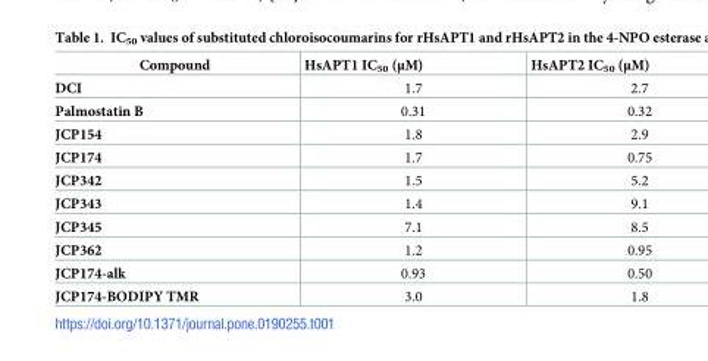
<table><thead><tr><td>Compound</td><td>HsAPT1 IC<sub>50</sub> (μM)</td><td>HsAPT2 IC<sub>50</sub> (μM)</td></tr></thead><tbody><tr><td>DCI</td><td>1.7</td><td>2.7</td></tr><tr><td>Palmostatin B</td><td>0.31</td><td>0.32</td></tr><tr><td>JCP154</td><td>1.8</td><td>2.9</td></tr><tr><td>JCP174</td><td>1.7</td><td>0.75</td></tr><tr><td>JCP342</td><td>1.5</td><td>5.2</td></tr><tr><td>JCP343</td><td>1.4</td><td>9.1</td></tr><tr><td>JCP345</td><td>7.1</td><td>8.5</td></tr><tr><td>JCP362</td><td>1.2</td><td>0.95</td></tr><tr><td>JCP174-alk</td><td>0.93</td><td>0.50</td></tr><tr><td>JCP174-BODIPY TMR</td><td>3.0</td><td>1.8</td></tr></tbody></table>